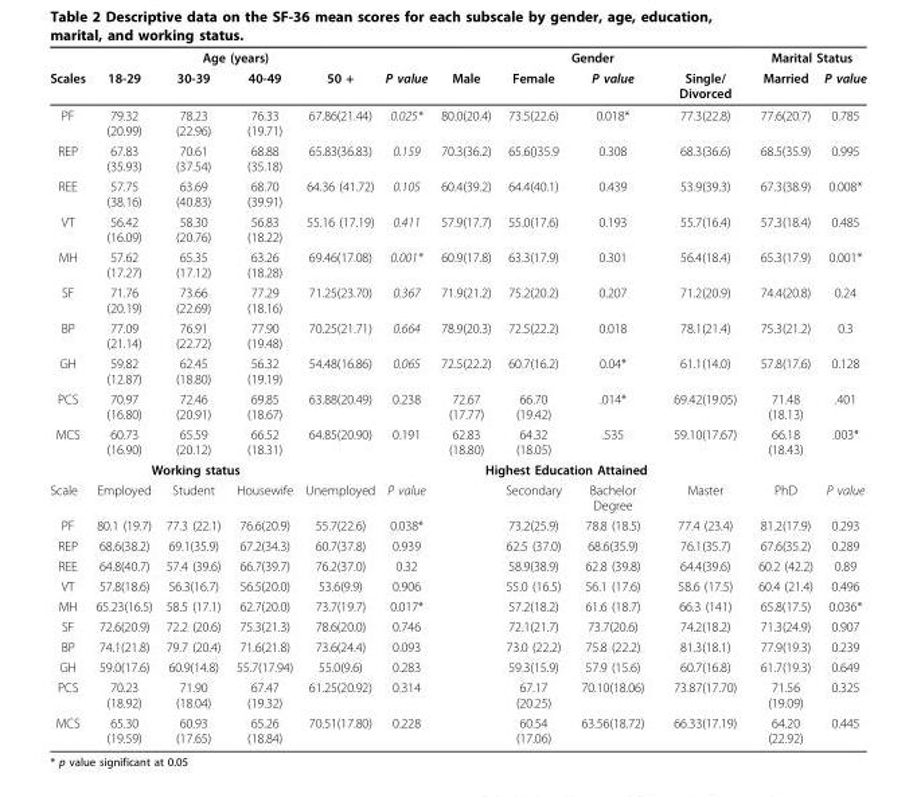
<table><thead><tr><td rowspan="2">Scales</td><td colspan="4">Age (years)</td><td rowspan="2">P value</td><td colspan="4">Gender</td><td colspan="2">Marital Status</td></tr><tr><td>18-29</td><td>30-39</td><td>40-49</td><td>50 +</td><td>Male</td><td>Female</td><td>P value</td><td>Single/ Divorced</td><td>Married</td><td>P value</td></tr></thead><tbody><tr><td>PF</td><td>79.32 (20.99)</td><td>78.23 (22.96)</td><td>76.33 (19.71)</td><td>67.86(21.44)</td><td>0.025*</td><td>80.0(20.4)</td><td>73.5(22.6)</td><td>0.018*</td><td>77.3(22.8)</td><td>77.6(20.7)</td><td>0.785</td></tr><tr><td>REP</td><td>67.83 (35.93)</td><td>70.61 (37.54)</td><td>68.88 (35.18)</td><td>65.83(36.83)</td><td>0.159</td><td>70.3(36.2)</td><td>65.6()35.9</td><td>0.308</td><td>68.3(36.6)</td><td>68.5(35.9)</td><td>0.995</td></tr><tr><td>REE</td><td>57.75 (38.16)</td><td>63.69 (40.83)</td><td>68.70 (39.91)</td><td>64.36 (41.72)</td><td>0.105</td><td>60.4(39.2)</td><td>64.4(40.1)</td><td>0.439</td><td>53.9(39.3)</td><td>67.3(38.9)</td><td>0.008*</td></tr><tr><td>VT</td><td>56.42 (16.09)</td><td>58.30 (20.76)</td><td>56.83 (18.22)</td><td>55.16 (17.19)</td><td>0.411</td><td>57.9(17.7)</td><td>55.0(17.6)</td><td>0.193</td><td>55.7(16.4)</td><td>57.3(18.4)</td><td>0.485</td></tr><tr><td>MH</td><td>57.62 (17.27)</td><td>65.35 (17.12)</td><td>63.26 (18.28)</td><td>69.46(17.08)</td><td>0.001*</td><td>60.9(17.8)</td><td>63.3(17.9)</td><td>0.301</td><td>56.4(18.4)</td><td>65.3(17.9)</td><td>0.001*</td></tr><tr><td>SF</td><td>71.76 (20.19)</td><td>73.66 (22.69)</td><td>77.29 (18.16)</td><td>71.25(23.70)</td><td>0.367</td><td>71.9(21.2)</td><td>75.2(20.2)</td><td>0.207</td><td>71.2(20.9)</td><td>74.4(20.8)</td><td>0.24</td></tr><tr><td>BP</td><td>77.09 (21.14)</td><td>76.91 (22.72)</td><td>77.90 (19.48)</td><td>70.25(21.71)</td><td>0.664</td><td>78.9(20.3)</td><td>72.5(22.2)</td><td>0.018</td><td>78.1(21.4)</td><td>75.3(21.2)</td><td>0.3</td></tr><tr><td>GH</td><td>59.82 (12.87)</td><td>62.45 (18.80)</td><td>56.32 (19.19)</td><td>54.48(16.86)</td><td>0.065</td><td>72.5(22.2)</td><td>60.7(16.2)</td><td>0.04*</td><td>61.1(14.0)</td><td>57.8(17.6)</td><td>0.128</td></tr><tr><td>PCS</td><td>70.97 (16.80)</td><td>72.46 (20.91)</td><td>69.85 (18.67)</td><td>63.88(20.49)</td><td>0.238</td><td>72.67 (17.77)</td><td>66.70 (19.42)</td><td>.014*</td><td>69.42(19.05)</td><td>71.48 (18.13)</td><td>.401</td></tr><tr><td rowspan="2">MCS</td><td>60.73 (16.90)</td><td>65.59 (20.12)</td><td>66.52 (18.31)</td><td>64.85(20.90)</td><td>0.191</td><td>62.83 (18.80)</td><td>64.32 (18.05)</td><td>.535</td><td>59.10(17.67)</td><td>66.18 (18.43)</td><td>.003*</td></tr><tr><td colspan="3">Working status</td><td></td><td colspan="5">Highest Education Attained</td><td></td><td></td></tr><tr><td>Scale</td><td>Employed</td><td>Student</td><td>Housewife</td><td>Unemployed</td><td>P value</td><td></td><td>Secondary</td><td>Bachelor Degree</td><td>Master</td><td>PhD</td><td>P value</td></tr><tr><td>PF</td><td>80.1 (19.7)</td><td>77.3 (22.1)</td><td>76.6(20.9)</td><td>55.7(22.6)</td><td>0.038*</td><td></td><td>73.2(25.9)</td><td>78.8 (18.5)</td><td>77.4 (23.4)</td><td>81.2(17.9)</td><td>0.293</td></tr><tr><td>REP</td><td>68.6(38.2)</td><td>69.1(35.9)</td><td>67.2(34.3)</td><td>60.7(37.8)</td><td>0.939</td><td></td><td>62.5 (37.0)</td><td>68.6(35.9)</td><td>76.1(35.7)</td><td>67.6(35.2)</td><td>0.289</td></tr><tr><td>REE</td><td>64.8(40.7)</td><td>57.4 (39.6)</td><td>66.7(39.7)</td><td>76.2(37.0)</td><td>0.32</td><td></td><td>58.9(38.9)</td><td>62.8 (39.8)</td><td>64.4(39.6)</td><td>60.2 (42.2)</td><td>0.89</td></tr><tr><td>VT</td><td>57.8(18.6)</td><td>56.3(16.7)</td><td>56.5(20.0)</td><td>53.6(9.9)</td><td>0.906</td><td></td><td>55.0 (16.5)</td><td>56.1 (17.6)</td><td>58.6 (17.5)</td><td>60.4 (21.4)</td><td>0.496</td></tr><tr><td>MH</td><td>65.23(16.5)</td><td>58.5 (17.1)</td><td>62.7(20.0)</td><td>73.7(19.7)</td><td>0.017*</td><td></td><td>57.2(18.2)</td><td>61.6 (18.7)</td><td>66.3 (141)</td><td>65.8(17.5)</td><td>0.036*</td></tr><tr><td>SF</td><td>72.6(20.9)</td><td>72.2 (20.6)</td><td>75.3(21.3)</td><td>78.6(20.0)</td><td>0.746</td><td></td><td>72.1(21.7)</td><td>73.7(20.6)</td><td>74.2(18.2)</td><td>71.3(24.9)</td><td>0.907</td></tr><tr><td>BP</td><td>74.1(21.8)</td><td>79.7 (20.4)</td><td>71.6(21.8)</td><td>73.6(24.4)</td><td>0.093</td><td></td><td>73.0 (22.2)</td><td>75.8 (22.2)</td><td>81.3(18.1)</td><td>77.9(19.3)</td><td>0.239</td></tr><tr><td>GH</td><td>59.0(17.6)</td><td>60.9(14.8)</td><td>55.7(17.94)</td><td>55.0(9.6)</td><td>0.283</td><td></td><td>59.3(15.9)</td><td>57.9 (15.6)</td><td>60.7(16.8)</td><td>61.7(19.3)</td><td>0.649</td></tr><tr><td>PCS</td><td>70.23 (18.92)</td><td>71.90 (18.04)</td><td>67.47 (19.32)</td><td>61.25(20.92)</td><td>0.314</td><td></td><td>67.17 (20.25)</td><td>70.10(18.06)</td><td>73.87(17.70)</td><td>71.56 (19.09)</td><td>0.325</td></tr><tr><td>MCS</td><td>65.30 (19.59)</td><td>60.93 (17.65)</td><td>65.26 (18.84)</td><td>70.51(17.80)</td><td>0.228</td><td></td><td>60.54 (17.06)</td><td>63.56(18.72)</td><td>66.33(17.19)</td><td>64.20 (22.92)</td><td>0.445</td></tr></tbody></table>